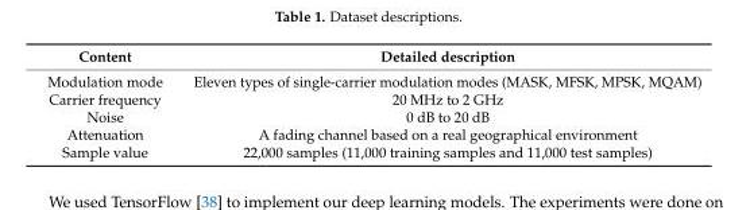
<table><thead><tr><td>Content</td><td>Detailed description</td></tr></thead><tbody><tr><td>Modulation mode</td><td>Eleven types of single-carrier modulation modes (MASK, MFSK, MPSK, MQAM)</td></tr><tr><td>Carrier frequency</td><td>20 MHz to 2 GHz</td></tr><tr><td>Noise</td><td>0 dB to 20 dB</td></tr><tr><td>Attenuation</td><td>A fading channel based on a real geographical environment</td></tr><tr><td>Sample value</td><td>22,000 samples (11,000 training samples and 11,000 test samples)</td></tr></tbody></table>